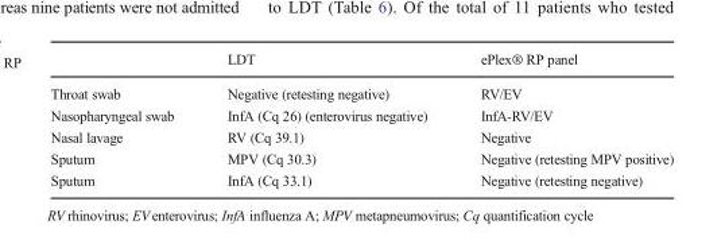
<table><thead><tr><td></td><td>LDT</td><td>ePlex® RP panel</td></tr></thead><tbody><tr><td>Throat swab</td><td>Negative (retesting negative)</td><td>RV/EV</td></tr><tr><td>Nasopharyngeal swab</td><td>InfA (Cq 26) (enterovirus negative)</td><td>InfA-RV/EV</td></tr><tr><td>Nasal lavage</td><td>RV (Cq 39.1)</td><td>Negative</td></tr><tr><td>Sputum</td><td>MPV (Cq 30.3)</td><td>Negative (retesting MPV positive)</td></tr><tr><td>Sputum</td><td>InfA (Cq 33.1)</td><td>Negative (retesting negative)</td></tr></tbody></table>